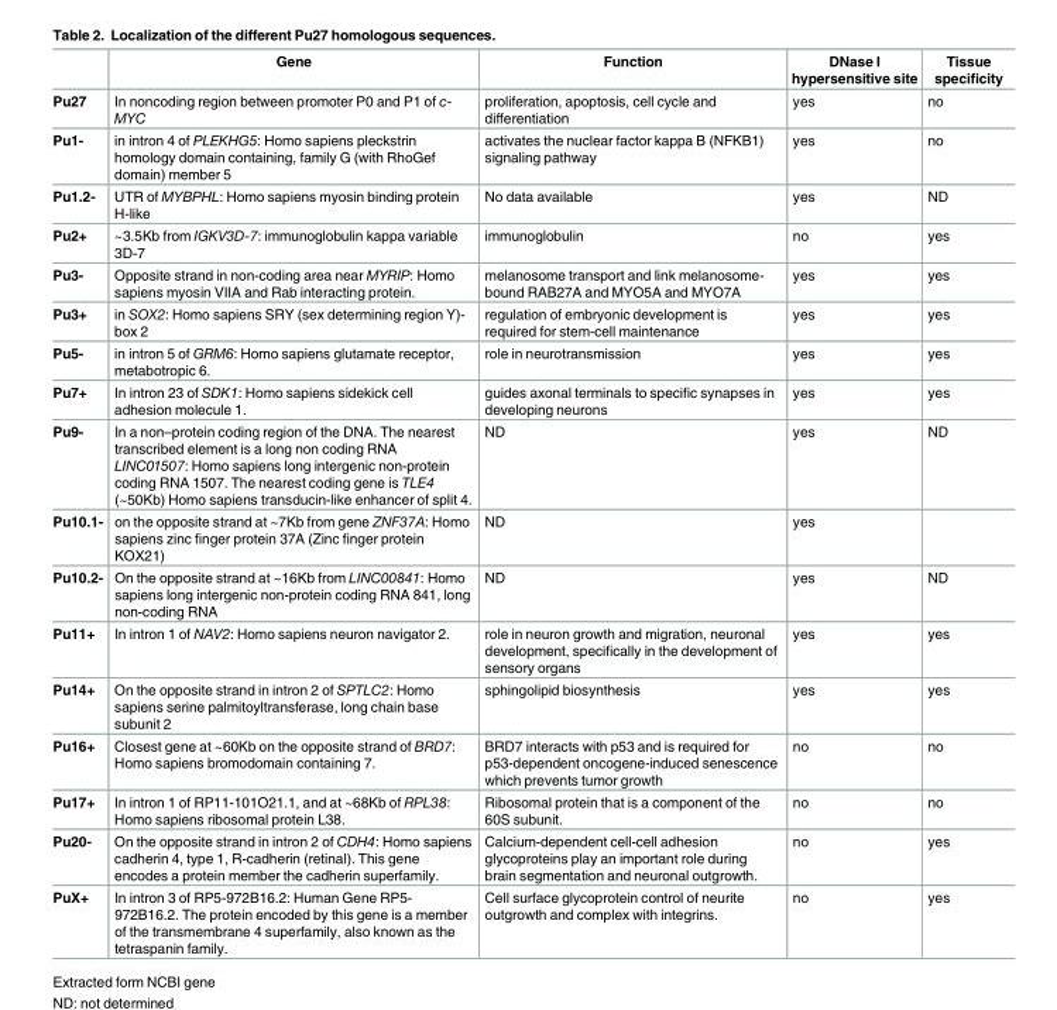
<table><thead><tr><td></td><td>Gene</td><td>Function</td><td>DNase I hypersensitive site</td><td>Tissue specificity</td></tr></thead><tbody><tr><td>Pu27</td><td>In noncoding region between promoter P0 and P1 of c- MYC</td><td>proliferation, apoptosis, cell cycle and differentiation</td><td>yes</td><td>no</td></tr><tr><td>Pu1-</td><td>in intron 4 of PLEKHG5: Homo sapiens pleckstrin homology domain containing, family G (with RhoGef domain) member 5</td><td>activates the nuclear factor kappa B (NFKB1) signaling pathway</td><td>yes</td><td>no</td></tr><tr><td>Pu1.2-</td><td>UTR of MYBPHL: Homo sapiens myosin binding protein H-like</td><td>No data available</td><td>yes</td><td>ND</td></tr><tr><td>Pu2+</td><td>~3.5Kb from IGKV3D-7: immunoglobulin kappa variable 3D-7</td><td>immunoglobulin</td><td>no</td><td>yes</td></tr><tr><td>Pu3-</td><td>Opposite strand in non-coding area near MYRIP: Homo sapiens myosin VIIA and Rab interacting protein.</td><td>melanosome transport and link melanosome- bound RAB27A and MYO5A and MYO7A</td><td>yes</td><td>yes</td></tr><tr><td>Pu3+</td><td>in SOX2: Homo sapiens SRY (sex determining region Y)- box 2</td><td>regulation of embryonic development is required for stem-cell maintenance</td><td>yes</td><td>yes</td></tr><tr><td>Pu5-</td><td>in intron 5 of GRM6: Homo sapiens glutamate receptor, metabotropic 6.</td><td>role in neurotransmission</td><td>yes</td><td>yes</td></tr><tr><td>Pu7+</td><td>In intron 23 of SDK1: Homo sapiens sidekick cell adhesion molecule 1.</td><td>guides axonal terminals to specific synapses in developing neurons</td><td>yes</td><td>yes</td></tr><tr><td>Pu9-</td><td>In a non–protein coding region of the DNA. The nearest transcribed element is a long non coding RNA LINC01507: Homo sapiens long intergenic non-protein coding RNA 1507. The nearest coding gene is TLE4 (~50Kb) Homo sapiens transducin-like enhancer of split 4.</td><td>ND</td><td>yes</td><td>ND</td></tr><tr><td>Pu10.1-</td><td>on the opposite strand at ~7Kb from gene ZNF37A: Homo sapiens zinc finger protein 37A (Zinc finger protein KOX21)</td><td>ND</td><td>yes</td><td></td></tr><tr><td>Pu10.2-</td><td>On the opposite strand at ~16Kb from LINC00841: Homo sapiens long intergenic non-protein coding RNA 841, long non-coding RNA</td><td>ND</td><td>yes</td><td>ND</td></tr><tr><td>Pu11+</td><td>In intron 1 of NAV2: Homo sapiens neuron navigator 2.</td><td>role in neuron growth and migration, neuronal development, specifically in the development of sensory organs</td><td>yes</td><td>yes</td></tr><tr><td>Pu14+</td><td>On the opposite strand in intron 2 of SPTLC2: Homo sapiens serine palmitoyltransferase, long chain base subunit 2</td><td>sphingolipid biosynthesis</td><td>yes</td><td>yes</td></tr><tr><td>Pu16+</td><td>Closest gene at ~60Kb on the opposite strand of BRD7: Homo sapiens bromodomain containing 7.</td><td>BRD7 interacts with p53 and is required for p53-dependent oncogene-induced senescence which prevents tumor growth</td><td>no</td><td>no</td></tr><tr><td>Pu17+</td><td>In intron 1 of RP11-101O21.1, and at ~68Kb of RPL38: Homo sapiens ribosomal protein L38.</td><td>Ribosomal protein that is a component of the 60S subunit.</td><td>no</td><td>no</td></tr><tr><td>Pu20-</td><td>On the opposite strand in intron 2 of CDH4: Homo sapiens cadherin 4, type 1, R-cadherin (retinal). This gene encodes a protein member the cadherin superfamily.</td><td>Calcium-dependent cell-cell adhesion glycoproteins play an important role during brain segmentation and neuronal outgrowth.</td><td>no</td><td>yes</td></tr><tr><td>PuX+</td><td>In intron 3 of RP5-972B16.2: Human Gene RP5- 972B16.2. The protein encoded by this gene is a member of the transmembrane 4 superfamily, also known as the tetraspanin family.</td><td>Cell surface glycoprotein control of neurite outgrowth and complex with integrins.</td><td>no</td><td>yes</td></tr></tbody></table>